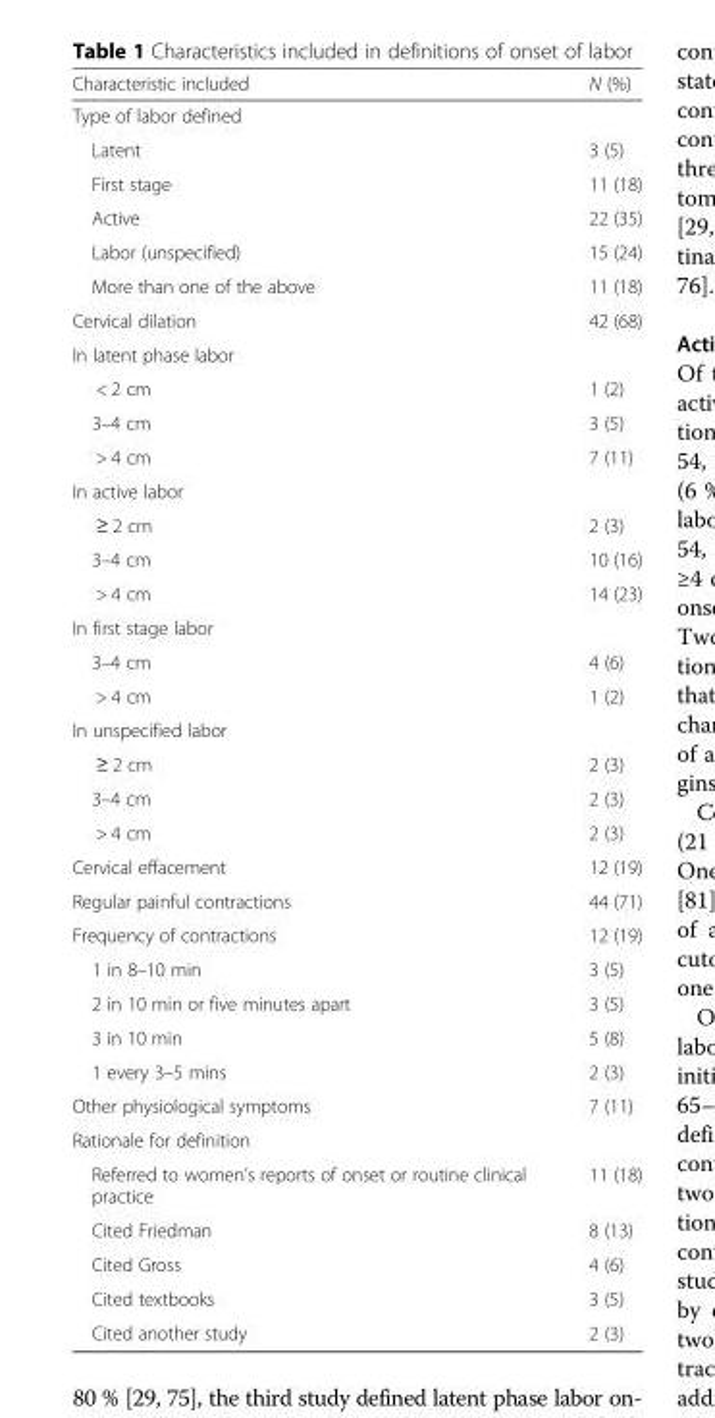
<table><thead><tr><td>Characteristic included</td><td>N (%)</td></tr></thead><tbody><tr><td colspan="2">Type of labor defined</td></tr><tr><td>Latent</td><td>3 (5)</td></tr><tr><td>First stage</td><td>11 (18)</td></tr><tr><td>Active</td><td>22 (35)</td></tr><tr><td>Labor (unspecified)</td><td>15 (24)</td></tr><tr><td>More than one of the above</td><td>11 (18)</td></tr><tr><td>Cervical dilation</td><td>42 (68)</td></tr><tr><td colspan="2">In latent phase labor</td></tr><tr><td>&lt; 2 cm</td><td>1 (2)</td></tr><tr><td>3–4 cm</td><td>3 (5)</td></tr><tr><td>&gt; 4 cm</td><td>7 (11)</td></tr><tr><td colspan="2">In active labor</td></tr><tr><td>≥ 2 cm</td><td>2 (3)</td></tr><tr><td>3–4 cm</td><td>10 (16)</td></tr><tr><td>&gt; 4 cm</td><td>14 (23)</td></tr><tr><td colspan="2">In first stage labor</td></tr><tr><td>3–4 cm</td><td>4 (6)</td></tr><tr><td>&gt; 4 cm</td><td>1 (2)</td></tr><tr><td colspan="2">In unspecified labor</td></tr><tr><td>≥ 2 cm</td><td>2 (3)</td></tr><tr><td>3–4 cm</td><td>2 (3)</td></tr><tr><td>&gt; 4 cm</td><td>2 (3)</td></tr><tr><td>Cervical effacement</td><td>12 (19)</td></tr><tr><td>Regular painful contractions</td><td>44 (71)</td></tr><tr><td>Frequency of contractions</td><td>12 (19)</td></tr><tr><td>1 in 8–10 min</td><td>3 (5)</td></tr><tr><td>2 in 10 min or five minutes apart</td><td>3 (5)</td></tr><tr><td>3 in 10 min</td><td>5 (8)</td></tr><tr><td>1 every 3–5 mins</td><td>2 (3)</td></tr><tr><td>Other physiological symptoms</td><td>7 (11)</td></tr><tr><td colspan="2">Rationale for definition</td></tr><tr><td>Referred to women’s reports of onset or routine clinical practice</td><td>11 (18)</td></tr><tr><td>Cited Friedman</td><td>8 (13)</td></tr><tr><td>Cited Gross</td><td>4 (6)</td></tr><tr><td>Cited textbooks</td><td>3 (5)</td></tr><tr><td>Cited another study</td><td>2 (3)</td></tr></tbody></table>